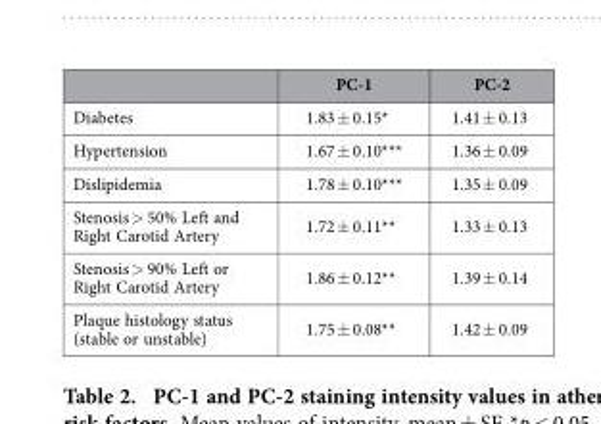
<table><thead><tr><td></td><td>PC-1</td><td>PC-2</td></tr></thead><tbody><tr><td>Diabetes</td><td>1.83 ± 0.15*</td><td>1.41 ± 0.13</td></tr><tr><td>Hypertension</td><td>1.67 ± 0.10***</td><td>1.36 ± 0.09</td></tr><tr><td>Dislipidemia</td><td>1.78 ± 0.10***</td><td>1.35 ± 0.09</td></tr><tr><td>Stenosis &gt; 50% Left and Right Carotid Artery</td><td>1.72 ± 0.11**</td><td>1.33 ± 0.13</td></tr><tr><td>Stenosis &gt; 90% Left or Right Carotid Artery</td><td>1.86 ± 0.12**</td><td>1.39 ± 0.14</td></tr><tr><td>Plaque histology status (stable or unstable)</td><td>1.75 ± 0.08**</td><td>1.42 ± 0.09</td></tr></tbody></table>